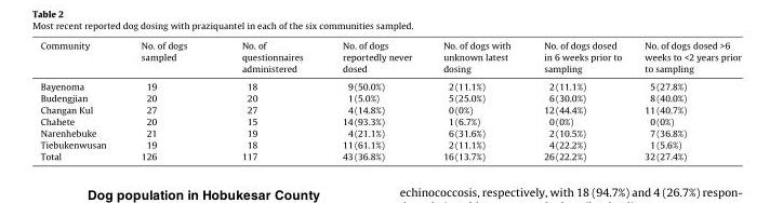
<table><thead><tr><td>Community</td><td>No. of dogs sampled</td><td>No. of questionnaires administered</td><td>No. of dogs reportedly never dosed</td><td>No. of dogs with unknown latest dosing</td><td>No. of dogs dosed in 6 weeks prior to sampling</td><td>No. of dogs dosed &gt;6 weeks to &lt;2 years prior to sampling</td></tr></thead><tbody><tr><td>Bayenoma</td><td>19</td><td>18</td><td>9 (50.0%)</td><td>2 (11.1%)</td><td>2 (11.1%)</td><td>5 (27.8%)</td></tr><tr><td>Budengjian</td><td>20</td><td>20</td><td>1 (5.0%)</td><td>5 (25.0%)</td><td>6 (30.0%)</td><td>8 (40.0%)</td></tr><tr><td>Changan Kul</td><td>27</td><td>27</td><td>4 (14.8%)</td><td>0 (0%)</td><td>12 (44.4%)</td><td>11 (40.7%)</td></tr><tr><td>Chahete</td><td>20</td><td>15</td><td>14 (93.3%)</td><td>1 (6.7%)</td><td>0 (0%)</td><td>0 (0%)</td></tr><tr><td>Narenhebuke</td><td>21</td><td>19</td><td>4 (21.1%)</td><td>6 (31.6%)</td><td>2 (10.5%)</td><td>7 (36.8%)</td></tr><tr><td>Tiebukenwusan</td><td>19</td><td>18</td><td>11 (61.1%)</td><td>2 (11.1%)</td><td>4 (22.2%)</td><td>1 (5.6%)</td></tr><tr><td>Total</td><td>126</td><td>117</td><td>43 (36.8%)</td><td>16 (13.7%)</td><td>26 (22.2%)</td><td>32 (27.4%)</td></tr></tbody></table>